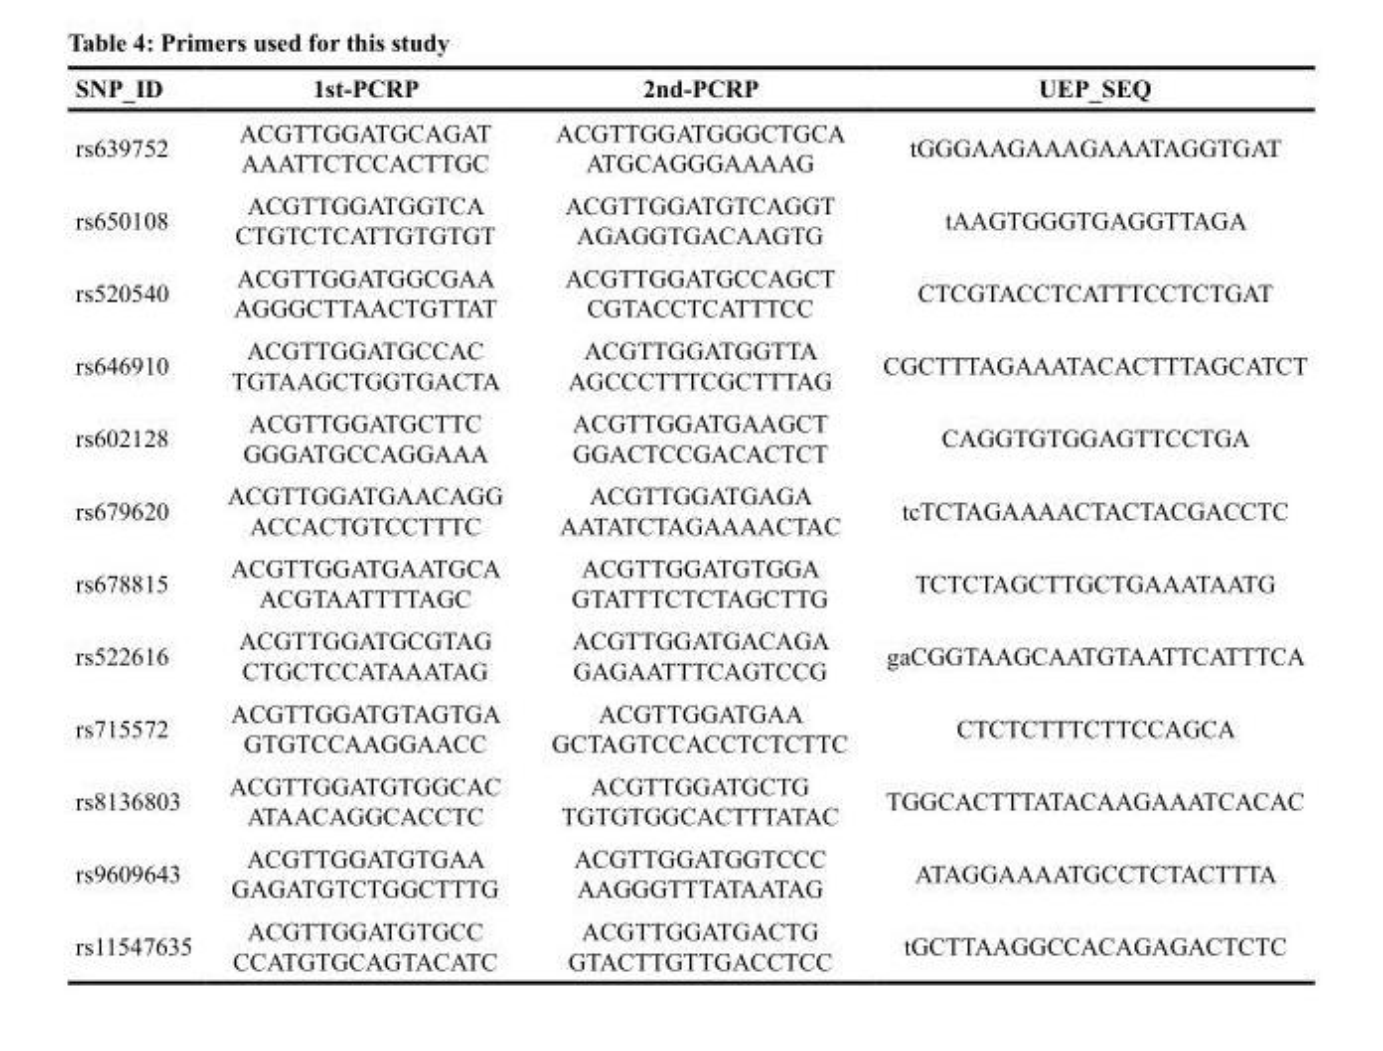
<table><thead><tr><td>SNP_ID</td><td>1st-PCRP</td><td>2nd-PCRP</td><td>UEP_SEQ</td></tr></thead><tbody><tr><td>rs639752</td><td>ACGTTGGATGCAGAT AAATTCTCCACTTGC</td><td>ACGTTGGATGGGCTGCA ATGCAGGGAAAAG</td><td>tGGGAAGAAAGAAATAGGTGAT</td></tr><tr><td>rs650108</td><td>ACGTTGGATGGTCA CTGTCTCATTGTGTGT</td><td>ACGTTGGATGTCAGGT AGAGGTGACAAGTG</td><td>tAAGTGGGTGAGGTTAGA</td></tr><tr><td>rs520540</td><td>ACGTTGGATGGCGAA AGGGCTTAACTGTTAT</td><td>ACGTTGGATGCCAGCT CGTACCTCATTTCC</td><td>CTCGTACCTCATTTCCTCTGAT</td></tr><tr><td>rs646910</td><td>ACGTTGGATGCCAC TGTAAGCTGGTGACTA</td><td>ACGTTGGATGGTTA AGCCCTTTCGCTTTAG</td><td>CGCTTTAGAAATACACTTTAGCATCT</td></tr><tr><td>rs602128</td><td>ACGTTGGATGCTTC GGGATGCCAGGAAA</td><td>ACGTTGGATGAAGCT GGACTCCGACACTCT</td><td>CAGGTGTGGAGTTCCTGA</td></tr><tr><td>rs679620</td><td>ACGTTGGATGAACAGG ACCACTGTCCTTTC</td><td>ACGTTGGATGAGA AATATCTAGAAAACTAC</td><td>tcTCTAGAAAACTACTACGACCTC</td></tr><tr><td>rs678815</td><td>ACGTTGGATGAATGCA ACGTAATTTTAGC</td><td>ACGTTGGATGTGGA GTATTTCTCTAGCTTG</td><td>TCTCTAGCTTGCTGAAATAATG</td></tr><tr><td>rs522616</td><td>ACGTTGGATGCGTAG CTGCTCCATAAATAG</td><td>ACGTTGGATGACAGA GAGAATTTCAGTCCG</td><td>gaCGGTAAGCAATGTAATTCATTTCA</td></tr><tr><td>rs715572</td><td>ACGTTGGATGTAGTGA GTGTCCAAGGAACC</td><td>ACGTTGGATGAA GCTAGTCCACCTCTCTTC</td><td>CTCTCTTTCTTCCAGCA</td></tr><tr><td>rs8136803</td><td>ACGTTGGATGTGGCAC ATAACAGGCACCTC</td><td>ACGTTGGATGCTG TGTGTGGCACTTTATAC</td><td>TGGCACTTTATACAAGAAATCACAC</td></tr><tr><td>rs9609643</td><td>ACGTTGGATGTGAA GAGATGTCTGGCTTTG</td><td>ACGTTGGATGGTCCC AAGGGTTTATAATAG</td><td>ATAGGAAAATGCCTCTACTTTA</td></tr><tr><td>rs11547635</td><td>ACGTTGGATGTGCC CCATGTGCAGTACATC</td><td>ACGTTGGATGACTG GTACTTGTTGACCTCC</td><td>tGCTTAAGGCCACAGAGACTCTC</td></tr></tbody></table>